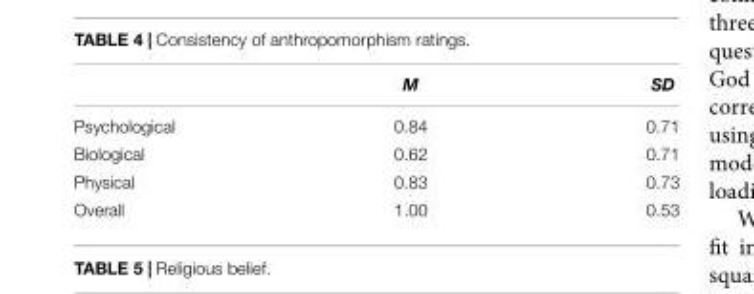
<table><thead><tr><td></td><td>M</td><td>SD</td></tr></thead><tbody><tr><td>Psychological</td><td>0.84</td><td>0.71</td></tr><tr><td>Biological</td><td>0.62</td><td>0.71</td></tr><tr><td>Physical</td><td>0.83</td><td>0.73</td></tr><tr><td>Overall</td><td>1.00</td><td>0.53</td></tr></tbody></table>